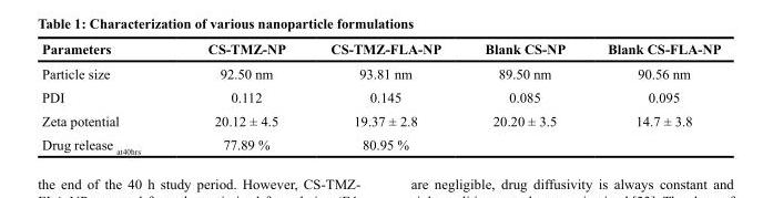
<table><thead><tr><td>Parameters</td><td>CS-TMZ-NP</td><td>CS-TMZ-FLA-NP</td><td>Blank CS-NP</td><td>Blank CS-FLA-NP</td></tr></thead><tbody><tr><td>Particle size</td><td>92.50 nm</td><td>93.81 nm</td><td>89.50 nm</td><td>90.56 nm</td></tr><tr><td>PDI</td><td>0.112</td><td>0.145</td><td>0.085</td><td>0.095</td></tr><tr><td>Zeta potential</td><td>20.12 ± 4.5</td><td>19.37 ± 2.8</td><td>20.20 ± 3.5</td><td>14.7 ± 3.8</td></tr><tr><td>Drug release <sub>at40hrs</sub></td><td>77.89 %</td><td>80.95 %</td><td></td><td></td></tr></tbody></table>